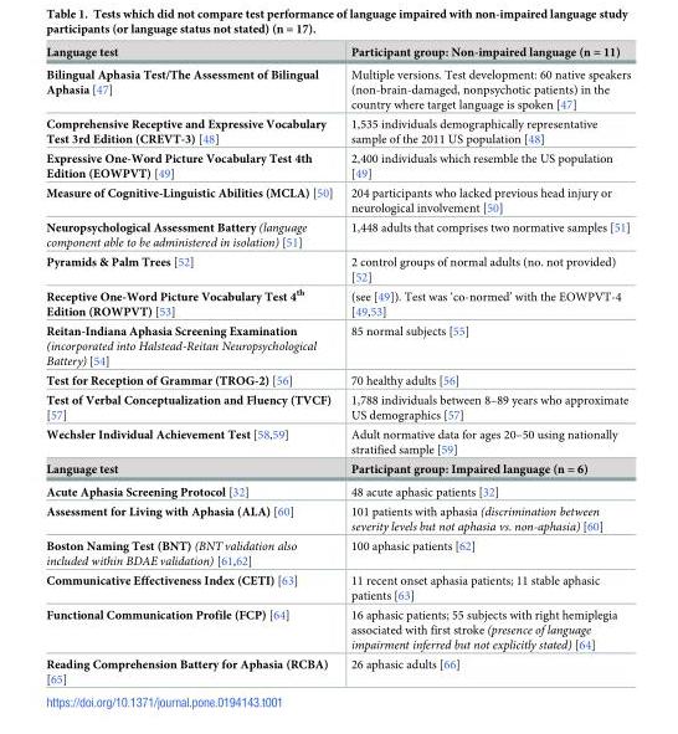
<table><tbody><tr><td>Language test</td><td>Participant group: Non-impaired language (n = 11)</td></tr><tr><td>Bilingual Aphasia Test/The Assessment of Bilingual Aphasia [47]</td><td>Multiple versions. Test development: 60 native speakers (non-brain-damaged, nonpsychotic patients) in the country where target language is spoken [47]</td></tr><tr><td>Comprehensive Receptive and Expressive Vocabulary Test 3rd Edition (CREVT-3) [48]</td><td>1,535 individuals demographically representative sample of the 2011 US population [48]</td></tr><tr><td>Expressive One-Word Picture Vocabulary Test 4th Edition (EOWPVT) [49]</td><td>2,400 individuals which resemble the US population [49]</td></tr><tr><td>Measure of Cognitive-Linguistic Abilities (MCLA) [50]</td><td>204 participants who lacked previous head injury or neurological involvement [50]</td></tr><tr><td>Neuropsychological Assessment Battery (language component able to be administered in isolation) [51]</td><td>1,448 adults that comprises two normative samples [51]</td></tr><tr><td>Pyramids &amp; Palm Trees [52]</td><td>2 control groups of normal adults (no. not provided) [52]</td></tr><tr><td>Receptive One-Word Picture Vocabulary Test 4<sup>th</sup> Edition (ROWPVT) [53]</td><td>(see [49]). Test was ‘co-normed’ with the EOWPVT-4 [49,53]</td></tr><tr><td>Reitan-Indiana Aphasia Screening Examination (incorporated into Halstead-Reitan Neuropsychological Battery) [54]</td><td>85 normal subjects [55]</td></tr><tr><td>Test for Reception of Grammar (TROG-2) [56]</td><td>70 healthy adults [56]</td></tr><tr><td>Test of Verbal Conceptualization and Fluency (TVCF) [57]</td><td>1,788 individuals between 8–89 years who approximate US demographics [57]</td></tr><tr><td>Wechsler Individual Achievement Test [58,59]</td><td>Adult normative data for ages 20–50 using nationally stratified sample [59]</td></tr><tr><td>Language test</td><td>Participant group: Impaired language (n = 6)</td></tr><tr><td>Acute Aphasia Screening Protocol [32]</td><td>48 acute aphasic patients [32]</td></tr><tr><td>Assessment for Living with Aphasia (ALA) [60]</td><td>101 patients with aphasia (discrimination between severity levels but not aphasia vs. non-aphasia) [60]</td></tr><tr><td>Boston Naming Test (BNT) (BNT validation also included within BDAE validation) [61,62]</td><td>100 aphasic patients [62]</td></tr><tr><td>Communicative Effectiveness Index (CETI) [63]</td><td>11 recent onset aphasia patients; 11 stable aphasic patients [63]</td></tr><tr><td>Functional Communication Profile (FCP) [64]</td><td>16 aphasic patients; 55 subjects with right hemiplegia associated with first stroke (presence of language impairment inferred but not explicitly stated) [64]</td></tr><tr><td>Reading Comprehension Battery for Aphasia (RCBA) [65]</td><td>26 aphasic adults [66]</td></tr></tbody></table>